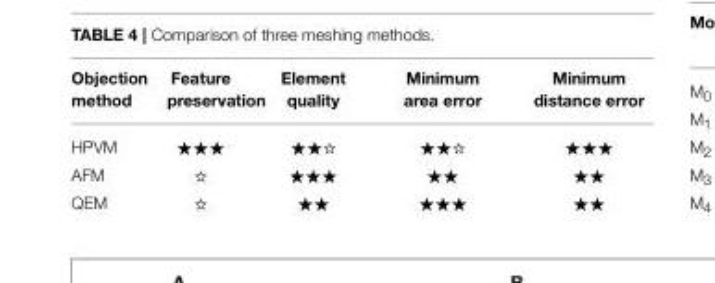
<table><thead><tr><td>Objection method</td><td>Feature preservation</td><td>Element quality</td><td>Minimum area error</td><td>Minimum distance error</td></tr></thead><tbody><tr><td>HPVM</td><td>⋆⋆⋆</td><td>⋆⋆☆</td><td>⋆⋆☆</td><td>⋆⋆⋆</td></tr><tr><td>AFM</td><td>☆</td><td>⋆⋆⋆</td><td>⋆⋆</td><td>⋆⋆</td></tr><tr><td>QEM</td><td>☆</td><td>⋆⋆</td><td>⋆⋆⋆</td><td>⋆⋆</td></tr></tbody></table>